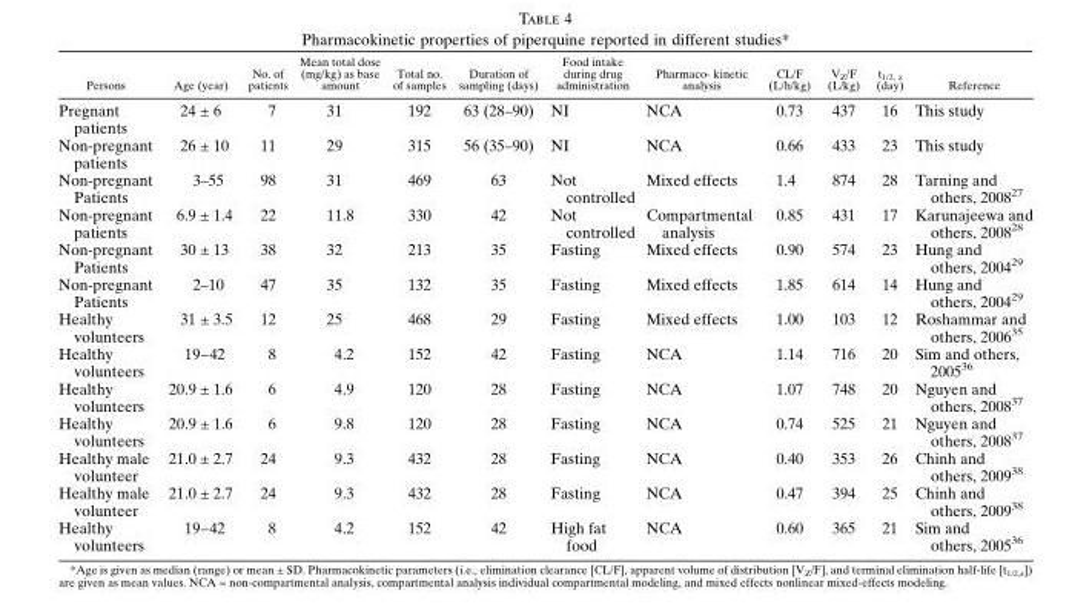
<table><thead><tr><td>Persons</td><td>Age (year)</td><td>No. of patients</td><td>Mean total dose (mg/kg) as base amount</td><td>Total no. of samples</td><td>Duration of sampling (days)</td><td>Food intake during drug administration</td><td>Pharmaco- kinetic analysis</td><td>CL/F (L/h/kg)</td><td>V<sub>Z</sub>/F (L/kg)</td><td>t<sub>1/2, z</sub> (day)</td><td>Reference</td></tr></thead><tbody><tr><td>Pregnant patients</td><td>24 ± 6</td><td>7</td><td>31</td><td>192</td><td>63 (28–90)</td><td>NI</td><td>NCA</td><td>0.73</td><td>437</td><td>16</td><td>This study</td></tr><tr><td>Non-pregnant patients</td><td>26 ± 10</td><td>11</td><td>29</td><td>315</td><td>56 (35–90)</td><td>NI</td><td>NCA</td><td>0.66</td><td>433</td><td>23</td><td>This study</td></tr><tr><td>Non-pregnant Patients</td><td>3–55</td><td>98</td><td>31</td><td>469</td><td>63</td><td>Not controlled</td><td>Mixed effects</td><td>1.4</td><td>874</td><td>28</td><td>Tarning and others, 2008<sup>27</sup></td></tr><tr><td>Non-pregnant patients</td><td>6.9 ± 1.4</td><td>22</td><td>11.8</td><td>330</td><td>42</td><td>Not controlled</td><td>Compartmental analysis</td><td>0.85</td><td>431</td><td>17</td><td>Karunajeewa and others, 2008<sup>28</sup></td></tr><tr><td>Non-pregnant Patients</td><td>30 ± 13</td><td>38</td><td>32</td><td>213</td><td>35</td><td>Fasting</td><td>Mixed effects</td><td>0.90</td><td>574</td><td>23</td><td>Hung and others, 2004<sup>29</sup></td></tr><tr><td>Non-pregnant Patients</td><td>2–10</td><td>47</td><td>35</td><td>132</td><td>35</td><td>Fasting</td><td>Mixed effects</td><td>1.85</td><td>614</td><td>14</td><td>Hung and others, 2004<sup>29</sup></td></tr><tr><td>Healthy volunteers</td><td>31 ± 3.5</td><td>12</td><td>25</td><td>468</td><td>29</td><td>Fasting</td><td>Mixed effects</td><td>1.00</td><td>103</td><td>12</td><td>Roshammar and others, 2006<sup>35</sup></td></tr><tr><td>Healthy volunteers</td><td>19–42</td><td>8</td><td>4.2</td><td>152</td><td>42</td><td>Fasting</td><td>NCA</td><td>1.14</td><td>716</td><td>20</td><td>Sim and others, 2005<sup>36</sup></td></tr><tr><td>Healthy volunteers</td><td>20.9 ± 1.6</td><td>6</td><td>4.9</td><td>120</td><td>28</td><td>Fasting</td><td>NCA</td><td>1.07</td><td>748</td><td>20</td><td>Nguyen and others, 2008<sup>37</sup></td></tr><tr><td>Healthy volunteers</td><td>20.9 ± 1.6</td><td>6</td><td>9.8</td><td>120</td><td>28</td><td>Fasting</td><td>NCA</td><td>0.74</td><td>525</td><td>21</td><td>Nguyen and others, 2008<sup>37</sup></td></tr><tr><td>Healthy male volunteer</td><td>21.0 ± 2.7</td><td>24</td><td>9.3</td><td>432</td><td>28</td><td>Fasting</td><td>NCA</td><td>0.40</td><td>353</td><td>26</td><td>Chinh and others, 2009<sup>38</sup></td></tr><tr><td>Healthy male volunteer</td><td>21.0 ± 2.7</td><td>24</td><td>9.3</td><td>432</td><td>28</td><td>Fasting</td><td>NCA</td><td>0.47</td><td>394</td><td>25</td><td>Chinh and others, 2009<sup>38</sup></td></tr><tr><td>Healthy volunteers</td><td>19–42</td><td>8</td><td>4.2</td><td>152</td><td>42</td><td>High fat food</td><td>NCA</td><td>0.60</td><td>365</td><td>21</td><td>Sim and others, 2005<sup>36</sup></td></tr></tbody></table>